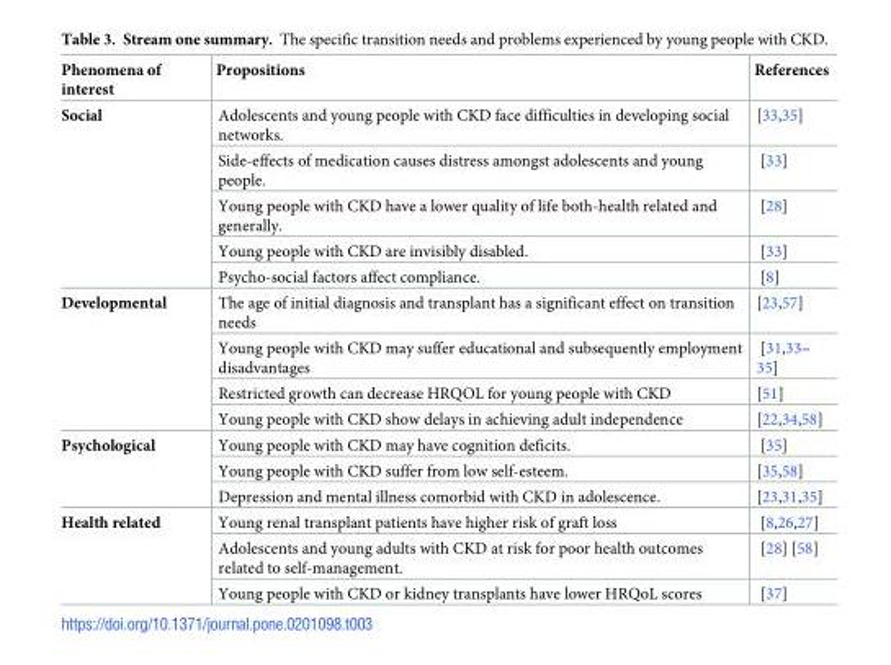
<table><thead><tr><td>Phenomena of interest</td><td>Propositions</td><td>References</td></tr></thead><tbody><tr><td rowspan="5">Social</td><td>Adolescents and young people with CKD face difficulties in developing social networks.</td><td>[33,35]</td></tr><tr><td>Side-effects of medication causes distress amongst adolescents and young people.</td><td>[33]</td></tr><tr><td>Young people with CKD have a lower quality of life both-health related and generally.</td><td>[28]</td></tr><tr><td>Young people with CKD are invisibly disabled.</td><td>[33]</td></tr><tr><td>Psycho-social factors affect compliance.</td><td>[8]</td></tr><tr><td rowspan="4">Developmental</td><td>The age of initial diagnosis and transplant has a significant effect on transition needs</td><td>[23,57]</td></tr><tr><td>Young people with CKD may suffer educational and subsequently employment disadvantages</td><td>[31,33– 35]</td></tr><tr><td>Restricted growth can decrease HRQOL for young people with CKD</td><td>[51]</td></tr><tr><td>Young people with CKD show delays in achieving adult independence</td><td>[22,34,58]</td></tr><tr><td rowspan="3">Psychological</td><td>Young people with CKD may have cognition deficits.</td><td>[35]</td></tr><tr><td>Young people with CKD suffer from low self-esteem.</td><td>[35,58]</td></tr><tr><td>Depression and mental illness comorbid with CKD in adolescence.</td><td>[23,31,35]</td></tr><tr><td rowspan="3">Health related</td><td>Young renal transplant patients have higher risk of graft loss</td><td>[8,26,27]</td></tr><tr><td>Adolescents and young adults with CKD at risk for poor health outcomes related to self-management.</td><td>[28] [58]</td></tr><tr><td>Young people with CKD or kidney transplants have lower HRQoL scores</td><td>[37]</td></tr></tbody></table>